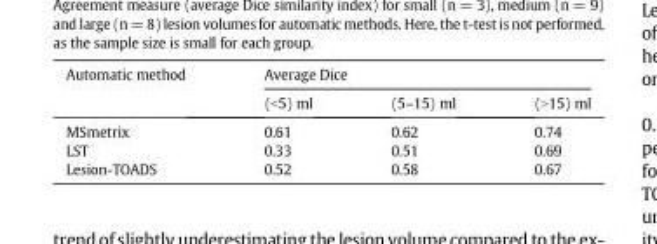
<table><thead><tr><td rowspan="2">Automatic method</td><td colspan="3">Average Dice</td></tr><tr><td>(&lt;5) ml</td><td>(5–15) ml</td><td>(&gt;15) ml</td></tr></thead><tbody><tr><td>MSmetrix</td><td>0.61</td><td>0.62</td><td>0.74</td></tr><tr><td>LST</td><td>0.33</td><td>0.51</td><td>0.69</td></tr><tr><td>Lesion-TOADS</td><td>0.52</td><td>0.58</td><td>0.67</td></tr></tbody></table>